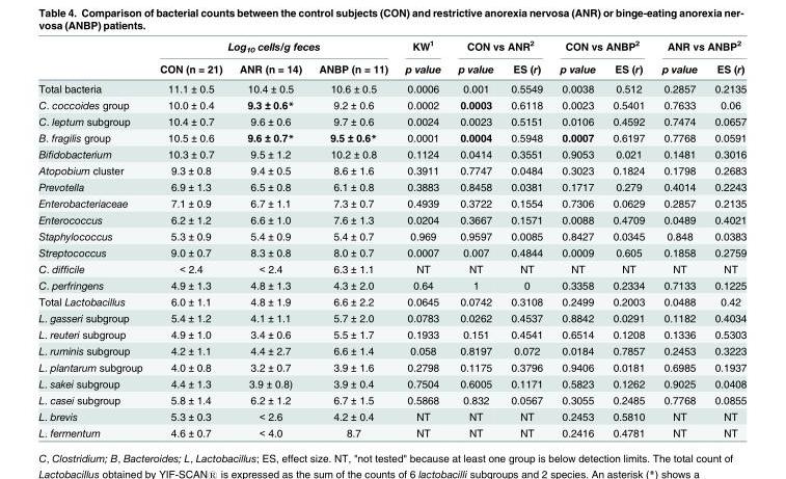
<table><thead><tr><td rowspan="2"></td><td colspan="3">Log<sub>10</sub> cells/g feces</td><td rowspan="2">KW<sup>1</sup> p value</td><td colspan="2">CON vs ANR<sup>2</sup></td><td colspan="2">CON vs ANBP<sup>2</sup></td><td colspan="2">ANR vs ANBP<sup>2</sup></td></tr><tr><td>CON (n = 21)</td><td>ANR (n = 14)</td><td>ANBP (n = 11)</td><td>p value</td><td>ES (r)</td><td>p value</td><td>ES (r)</td><td>p value</td><td>ES (r)</td></tr></thead><tbody><tr><td>Total bacteria</td><td>11.1 ± 0.5</td><td>10.4 ± 0.5</td><td>10.6 ± 0.5</td><td>0.0006</td><td>0.001</td><td>0.5549</td><td>0.0038</td><td>0.512</td><td>0.2857</td><td>0.2135</td></tr><tr><td>C. coccoides group</td><td>10.0 ± 0.4</td><td>9.3 ± 0.6*</td><td>9.2 ± 0.6</td><td>0.0002</td><td>0.0003</td><td>0.6118</td><td>0.0023</td><td>0.5401</td><td>0.7633</td><td>0.06</td></tr><tr><td>C. leptum subgroup</td><td>10.4 ± 0.7</td><td>9.6 ± 0.6</td><td>9.7 ± 0.6</td><td>0.0024</td><td>0.0023</td><td>0.5151</td><td>0.0106</td><td>0.4592</td><td>0.7474</td><td>0.0657</td></tr><tr><td>B. fragilis group</td><td>10.5 ± 0.6</td><td>9.6 ± 0.7*</td><td>9.5 ± 0.6*</td><td>0.0001</td><td>0.0004</td><td>0.5948</td><td>0.0007</td><td>0.6197</td><td>0.7768</td><td>0.0591</td></tr><tr><td>Bifidobacterium</td><td>10.3 ± 0.7</td><td>9.5 ± 1.2</td><td>10.2 ± 0.8</td><td>0.1124</td><td>0.0414</td><td>0.3551</td><td>0.9053</td><td>0.021</td><td>0.1481</td><td>0.3016</td></tr><tr><td>Atopobium cluster</td><td>9.3 ± 0.8</td><td>9.4 ± 0.5</td><td>8.6 ± 1.6</td><td>0.3911</td><td>0.7747</td><td>0.0484</td><td>0.3023</td><td>0.1824</td><td>0.1798</td><td>0.2683</td></tr><tr><td>Prevotella</td><td>6.9 ± 1.3</td><td>6.5 ± 0.8</td><td>6.1 ± 0.8</td><td>0.3883</td><td>0.8458</td><td>0.0381</td><td>0.1717</td><td>0.279</td><td>0.4014</td><td>0.2243</td></tr><tr><td>Enterobacteriaceae</td><td>7.1 ± 0.9</td><td>6.7 ± 1.1</td><td>7.3 ± 0.7</td><td>0.4939</td><td>0.3722</td><td>0.1554</td><td>0.7306</td><td>0.0629</td><td>0.2857</td><td>0.2135</td></tr><tr><td>Enterococcus</td><td>6.2 ± 1.2</td><td>6.6 ± 1.0</td><td>7.6 ± 1.3</td><td>0.0204</td><td>0.3667</td><td>0.1571</td><td>0.0088</td><td>0.4709</td><td>0.0489</td><td>0.4021</td></tr><tr><td>Staphylococcus</td><td>5.3 ± 0.9</td><td>5.4 ± 0.9</td><td>5.4 ± 0.7</td><td>0.969</td><td>0.9597</td><td>0.0085</td><td>0.8427</td><td>0.0345</td><td>0.848</td><td>0.0383</td></tr><tr><td>Streptococcus</td><td>9.0 ± 0.7</td><td>8.3 ± 0.8</td><td>8.0 ± 0.7</td><td>0.0007</td><td>0.007</td><td>0.4844</td><td>0.0009</td><td>0.605</td><td>0.1858</td><td>0.2759</td></tr><tr><td>C. difficile</td><td>&lt; 2.4</td><td>&lt; 2.4</td><td>6.3 ± 1.1</td><td>NT</td><td>NT</td><td>NT</td><td>NT</td><td>NT</td><td>NT</td><td>NT</td></tr><tr><td>C. perfringens</td><td>4.9 ± 1.3</td><td>4.8 ± 1.3</td><td>4.3 ± 2.0</td><td>0.64</td><td>1</td><td>0</td><td>0.3358</td><td>0.2334</td><td>0.7133</td><td>0.1225</td></tr><tr><td>Total Lactobacillus</td><td>6.0 ± 1.1</td><td>4.8 ± 1.9</td><td>6.6 ± 2.2</td><td>0.0645</td><td>0.0742</td><td>0.3108</td><td>0.2499</td><td>0.2003</td><td>0.0488</td><td>0.42</td></tr><tr><td>L. gasseri subgroup</td><td>5.4 ± 1.2</td><td>4.1 ± 1.1</td><td>5.7 ± 2.0</td><td>0.0783</td><td>0.0262</td><td>0.4537</td><td>0.8842</td><td>0.0291</td><td>0.1182</td><td>0.4034</td></tr><tr><td>L. reuteri subgroup</td><td>4.9 ± 1.0</td><td>3.4 ± 0.6</td><td>5.5 ± 1.7</td><td>0.1933</td><td>0.151</td><td>0.4541</td><td>0.6514</td><td>0.1208</td><td>0.1336</td><td>0.5303</td></tr><tr><td>L. ruminis subgroup</td><td>4.2 ± 1.1</td><td>4.4 ± 2.7</td><td>6.6 ± 1.4</td><td>0.058</td><td>0.8197</td><td>0.072</td><td>0.0184</td><td>0.7857</td><td>0.2453</td><td>0.3223</td></tr><tr><td>L. plantarum subgroup</td><td>4.0 ± 0.8</td><td>3.2 ± 0.7</td><td>3.9 ± 1.6</td><td>0.2798</td><td>0.1175</td><td>0.3796</td><td>0.9406</td><td>0.0181</td><td>0.6985</td><td>0.1937</td></tr><tr><td>L. sakei subgroup</td><td>4.4 ± 1.3</td><td>3.9 ± 0.8)</td><td>3.9 ± 0.4</td><td>0.7504</td><td>0.6005</td><td>0.1171</td><td>0.5823</td><td>0.1262</td><td>0.9025</td><td>0.0408</td></tr><tr><td>L. casei subgroup</td><td>5.8 ± 1.4</td><td>6.2 ± 1.2</td><td>6.7 ± 1.5</td><td>0.5868</td><td>0.832</td><td>0.0567</td><td>0.3055</td><td>0.2485</td><td>0.7768</td><td>0.0855</td></tr><tr><td>L. brevis</td><td>5.3 ± 0.3</td><td>&lt; 2.6</td><td>4.2 ± 0.4</td><td>NT</td><td>NT</td><td>NT</td><td>0.2453</td><td>0.5810</td><td>NT</td><td>NT</td></tr><tr><td>L. fermentum</td><td>4.6 ± 0.7</td><td>&lt; 4.0</td><td>8.7</td><td>NT</td><td>NT</td><td>NT</td><td>0.2416</td><td>0.4781</td><td>NT</td><td>NT</td></tr></tbody></table>